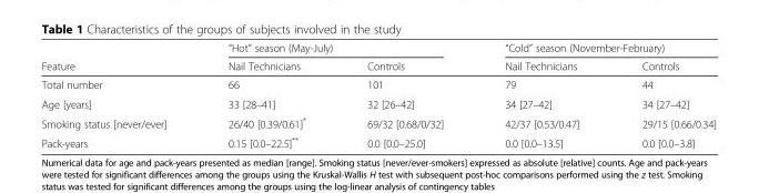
<table><thead><tr><td rowspan="2">Feature</td><td colspan="2">“Hot” season (May-July)</td><td colspan="2">“Cold” season (November-February)</td></tr><tr><td>Nail Technicians</td><td>Controls</td><td>Nail Technicians</td><td>Controls</td></tr></thead><tbody><tr><td>Total number</td><td>66</td><td>101</td><td>79</td><td>44</td></tr><tr><td>Age [years]</td><td>33 [28–41]</td><td>32 [26–42]</td><td>34 [27–42]</td><td>34 [27–42]</td></tr><tr><td>Smoking status [never/ever]</td><td>26/40 [0.39/0.61]*</td><td>69/32 [0.68/0/32]</td><td>42/37 [0.53/0.47]</td><td>29/15 [0.66/0.34]</td></tr><tr><td>Pack-years</td><td>0.15 [0.0–22.5]**</td><td>0.0 [0.0–25.0]</td><td>0.0 [0.0–13.5]</td><td>0.0 [0.0–3.8]</td></tr></tbody></table>